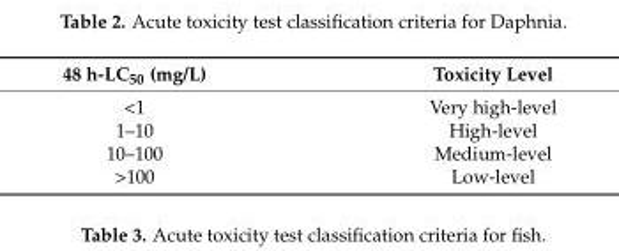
<table><thead><tr><td>48 h-LC<sub>50</sub> (mg/L)</td><td>Toxicity Level</td></tr></thead><tbody><tr><td>&lt;1</td><td>Very high-level</td></tr><tr><td>1–10</td><td>High-level</td></tr><tr><td>10–100</td><td>Medium-level</td></tr><tr><td>&gt;100</td><td>Low-level</td></tr></tbody></table>